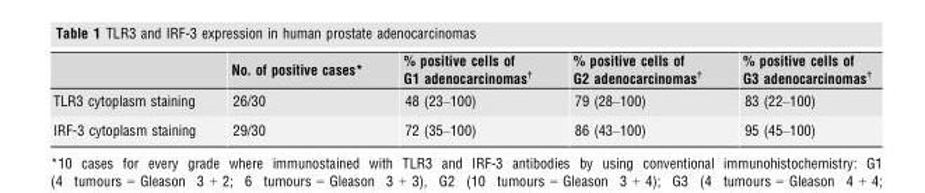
<table><thead><tr><td></td><td>No. of positive cases*</td><td>% positive cells of G1 adenocarcinomas†</td><td>% positive cells of G2 adenocarcinomas†</td><td>% positive cells of G3 adenocarcinomas†</td></tr></thead><tbody><tr><td>TLR3 cytoplasm staining</td><td>26/30</td><td>48 (23–100)</td><td>79 (28–100)</td><td>83 (22–100)</td></tr><tr><td>IRF-3 cytoplasm staining</td><td>29/30</td><td>72 (35–100)</td><td>86 (43–100)</td><td>95 (45–100)</td></tr></tbody></table>